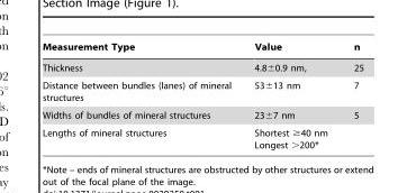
<table><thead><tr><td>Measurement Type</td><td>Value</td><td>n</td></tr></thead><tbody><tr><td>Thickness</td><td>4.8±0.9 nm,</td><td>25</td></tr><tr><td>Distance between bundles (lanes) of mineral structures</td><td>53±13 nm</td><td>7</td></tr><tr><td>Widths of bundles of mineral structures</td><td>23±7 nm</td><td>5</td></tr><tr><td>Lengths of mineral structures</td><td>Shortest ≥40 nm Longest &gt;200*</td><td></td></tr></tbody></table>